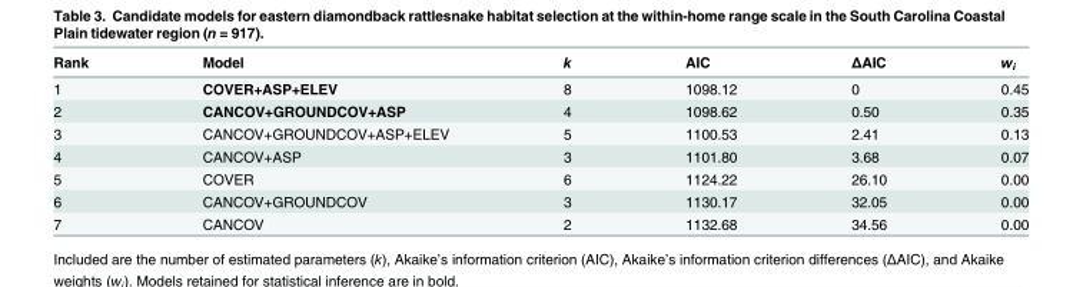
<table><thead><tr><td>Rank</td><td>Model</td><td>k</td><td>AIC</td><td>ΔAIC</td><td>w<sub>i</sub></td></tr></thead><tbody><tr><td>1</td><td>COVER+ASP+ELEV</td><td>8</td><td>1098.12</td><td>0</td><td>0.45</td></tr><tr><td>2</td><td>CANCOV+GROUNDCOV+ASP</td><td>4</td><td>1098.62</td><td>0.50</td><td>0.35</td></tr><tr><td>3</td><td>CANCOV+GROUNDCOV+ASP+ELEV</td><td>5</td><td>1100.53</td><td>2.41</td><td>0.13</td></tr><tr><td>4</td><td>CANCOV+ASP</td><td>3</td><td>1101.80</td><td>3.68</td><td>0.07</td></tr><tr><td>5</td><td>COVER</td><td>6</td><td>1124.22</td><td>26.10</td><td>0.00</td></tr><tr><td>6</td><td>CANCOV+GROUNDCOV</td><td>3</td><td>1130.17</td><td>32.05</td><td>0.00</td></tr><tr><td>7</td><td>CANCOV</td><td>2</td><td>1132.68</td><td>34.56</td><td>0.00</td></tr></tbody></table>